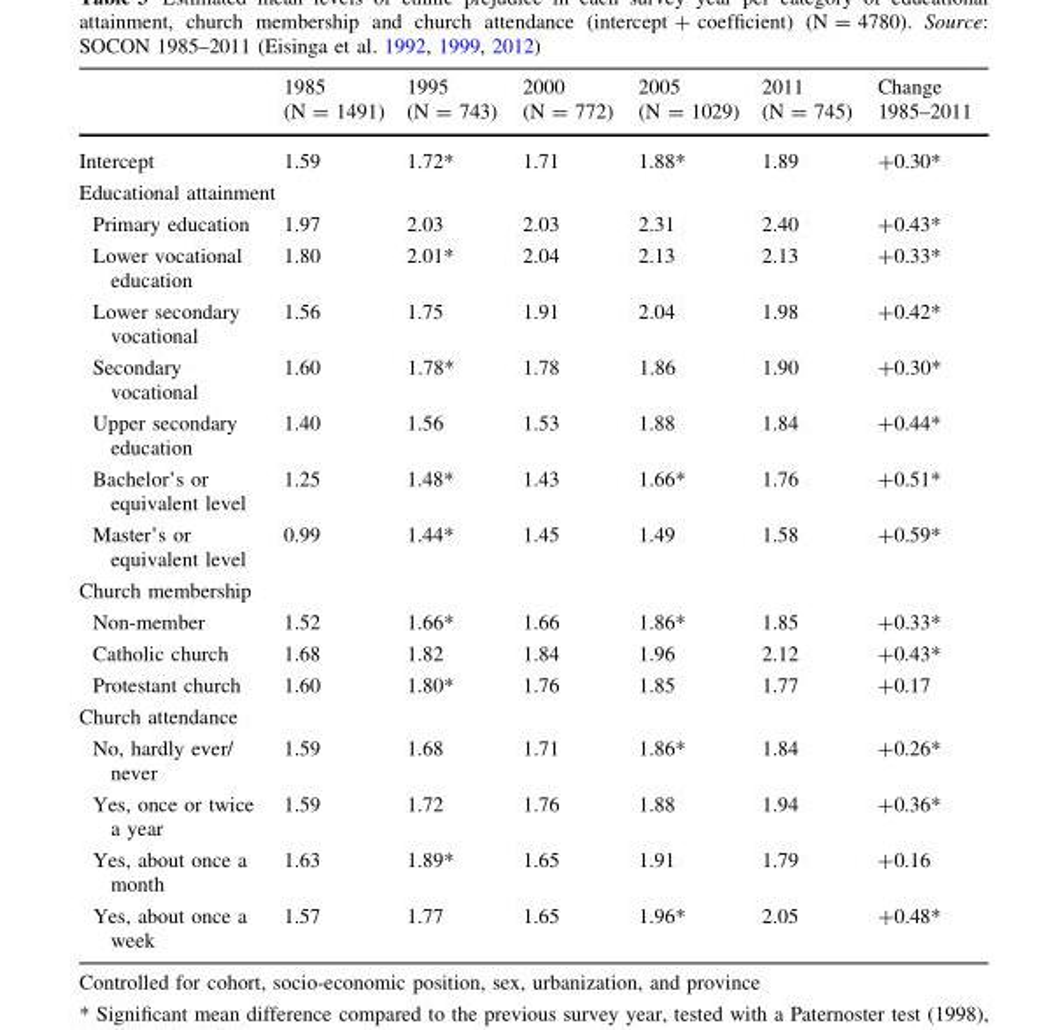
<table><thead><tr><td></td><td>1985 (N = 1491)</td><td>1995 (N = 743)</td><td>2000 (N = 772)</td><td>2005 (N = 1029)</td><td>2011 (N = 745)</td><td>Change 1985–2011</td></tr></thead><tbody><tr><td>Intercept</td><td>1.59</td><td>1.72*</td><td>1.71</td><td>1.88*</td><td>1.89</td><td>+0.30*</td></tr><tr><td colspan="7">Educational attainment</td></tr><tr><td>Primary education</td><td>1.97</td><td>2.03</td><td>2.03</td><td>2.31</td><td>2.40</td><td>+0.43*</td></tr><tr><td>Lower vocational education</td><td>1.80</td><td>2.01*</td><td>2.04</td><td>2.13</td><td>2.13</td><td>+0.33*</td></tr><tr><td>Lower secondary vocational</td><td>1.56</td><td>1.75</td><td>1.91</td><td>2.04</td><td>1.98</td><td>+0.42*</td></tr><tr><td>Secondary vocational</td><td>1.60</td><td>1.78*</td><td>1.78</td><td>1.86</td><td>1.90</td><td>+0.30*</td></tr><tr><td>Upper secondary education</td><td>1.40</td><td>1.56</td><td>1.53</td><td>1.88</td><td>1.84</td><td>+0.44*</td></tr><tr><td>Bachelor’s or equivalent level</td><td>1.25</td><td>1.48*</td><td>1.43</td><td>1.66*</td><td>1.76</td><td>+0.51*</td></tr><tr><td>Master’s or equivalent level</td><td>0.99</td><td>1.44*</td><td>1.45</td><td>1.49</td><td>1.58</td><td>+0.59*</td></tr><tr><td colspan="7">Church membership</td></tr><tr><td>Non-member</td><td>1.52</td><td>1.66*</td><td>1.66</td><td>1.86*</td><td>1.85</td><td>+0.33*</td></tr><tr><td>Catholic church</td><td>1.68</td><td>1.82</td><td>1.84</td><td>1.96</td><td>2.12</td><td>+0.43*</td></tr><tr><td>Protestant church</td><td>1.60</td><td>1.80*</td><td>1.76</td><td>1.85</td><td>1.77</td><td>+0.17</td></tr><tr><td colspan="7">Church attendance</td></tr><tr><td>No, hardly ever/ never</td><td>1.59</td><td>1.68</td><td>1.71</td><td>1.86*</td><td>1.84</td><td>+0.26*</td></tr><tr><td>Yes, once or twice a year</td><td>1.59</td><td>1.72</td><td>1.76</td><td>1.88</td><td>1.94</td><td>+0.36*</td></tr><tr><td>Yes, about once a month</td><td>1.63</td><td>1.89*</td><td>1.65</td><td>1.91</td><td>1.79</td><td>+0.16</td></tr><tr><td>Yes, about once a week</td><td>1.57</td><td>1.77</td><td>1.65</td><td>1.96*</td><td>2.05</td><td>+0.48*</td></tr></tbody></table>